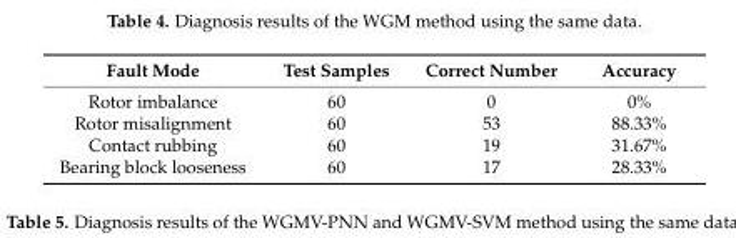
<table><thead><tr><td>Fault Mode</td><td>Test Samples</td><td>Correct Number</td><td>Accuracy</td></tr></thead><tbody><tr><td>Rotor imbalance</td><td>60</td><td>0</td><td>0%</td></tr><tr><td>Rotor misalignment</td><td>60</td><td>53</td><td>88.33%</td></tr><tr><td>Contact rubbing</td><td>60</td><td>19</td><td>31.67%</td></tr><tr><td>Bearing block looseness</td><td>60</td><td>17</td><td>28.33%</td></tr></tbody></table>